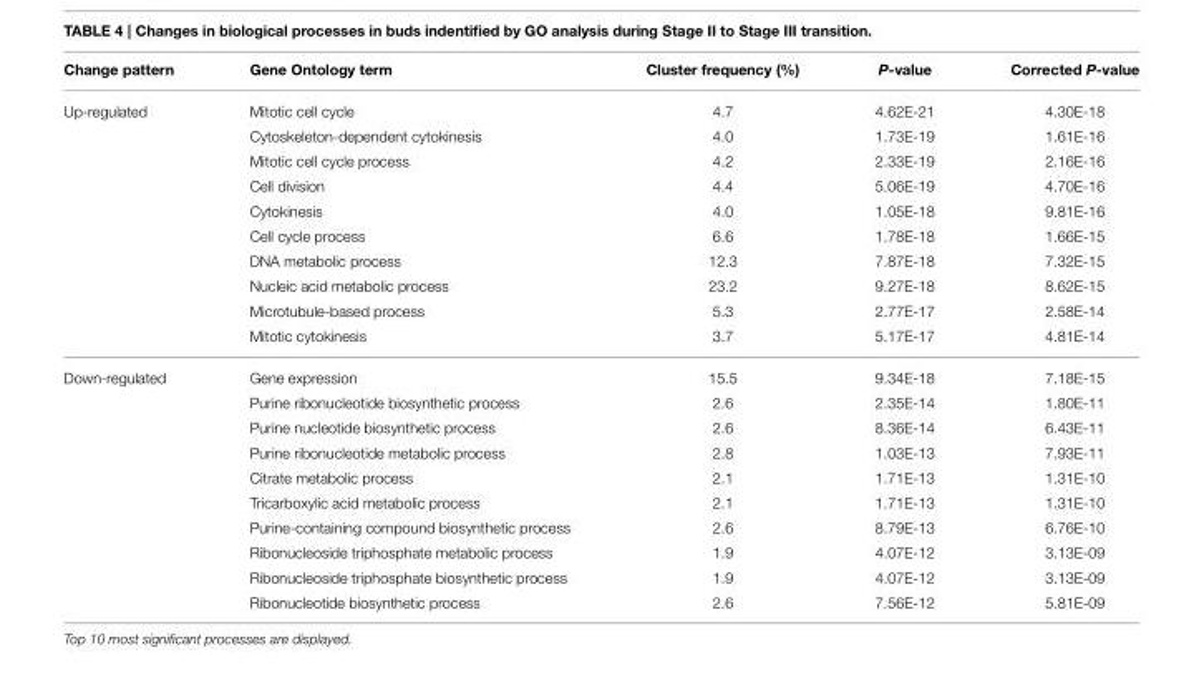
<table><thead><tr><td>Change pattern</td><td>Gene Ontology term</td><td>Cluster frequency (%)</td><td>P-value</td><td>Corrected P-value</td></tr></thead><tbody><tr><td rowspan="10">Up-regulated</td><td>Mitotic cell cycle</td><td>4.7</td><td>4.62E-21</td><td>4.30E-18</td></tr><tr><td>Cytoskeleton-dependent cytokinesis</td><td>4.0</td><td>1.73E-19</td><td>1.61E-16</td></tr><tr><td>Mitotic cell cycle process</td><td>4.2</td><td>2.33E-19</td><td>2.16E-16</td></tr><tr><td>Cell division</td><td>4.4</td><td>5.06E-19</td><td>4.70E-16</td></tr><tr><td>Cytokinesis</td><td>4.0</td><td>1.05E-18</td><td>9.81E-16</td></tr><tr><td>Cell cycle process</td><td>6.6</td><td>1.78E-18</td><td>1.66E-15</td></tr><tr><td>DNA metabolic process</td><td>12.3</td><td>7.87E-18</td><td>7.32E-15</td></tr><tr><td>Nucleic acid metabolic process</td><td>23.2</td><td>9.27E-18</td><td>8.62E-15</td></tr><tr><td>Microtubule-based process</td><td>5.3</td><td>2.77E-17</td><td>2.58E-14</td></tr><tr><td>Mitotic cytokinesis</td><td>3.7</td><td>5.17E-17</td><td>4.81E-14</td></tr><tr><td rowspan="10">Down-regulated</td><td>Gene expression</td><td>15.5</td><td>9.34E-18</td><td>7.18E-15</td></tr><tr><td>Purine ribonucleotide biosynthetic process</td><td>2.6</td><td>2.35E-14</td><td>1.80E-11</td></tr><tr><td>Purine nucleotide biosynthetic process</td><td>2.6</td><td>8.36E-14</td><td>6.43E-11</td></tr><tr><td>Purine ribonucleotide metabolic process</td><td>2.8</td><td>1.03E-13</td><td>7.93E-11</td></tr><tr><td>Citrate metabolic process</td><td>2.1</td><td>1.71E-13</td><td>1.31E-10</td></tr><tr><td>Tricarboxylic acid metabolic process</td><td>2.1</td><td>1.71E-13</td><td>1.31E-10</td></tr><tr><td>Purine-containing compound biosynthetic process</td><td>2.6</td><td>8.79E-13</td><td>6.76E-10</td></tr><tr><td>Ribonucleoside triphosphate metabolic process</td><td>1.9</td><td>4.07E-12</td><td>3.13E-09</td></tr><tr><td>Ribonucleoside triphosphate biosynthetic process</td><td>1.9</td><td>4.07E-12</td><td>3.13E-09</td></tr><tr><td>Ribonucleotide biosynthetic process</td><td>2.6</td><td>7.56E-12</td><td>5.81E-09</td></tr></tbody></table>